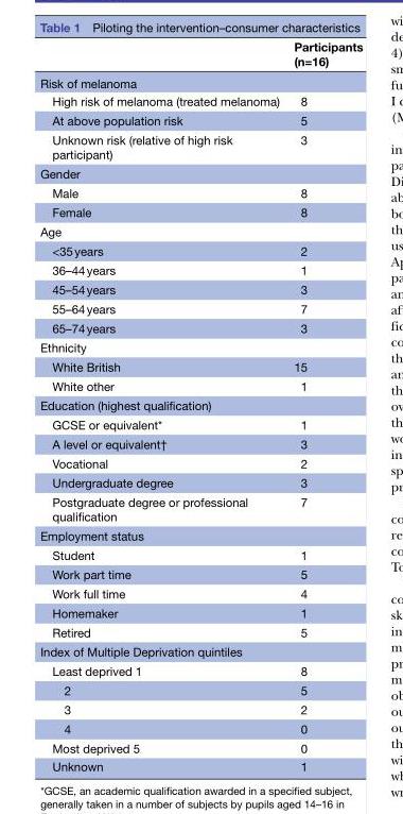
<table><thead><tr><td></td><td>Participants (n=16)</td></tr></thead><tbody><tr><td colspan="2">Risk of melanoma</td></tr><tr><td>High risk of melanoma (treated melanoma)</td><td>8</td></tr><tr><td>At above population risk</td><td>5</td></tr><tr><td>Unknown risk (relative of high risk participant)</td><td>3</td></tr><tr><td colspan="2">Gender</td></tr><tr><td>Male</td><td>8</td></tr><tr><td>Female</td><td>8</td></tr><tr><td colspan="2">Age</td></tr><tr><td>&lt;35 years</td><td>2</td></tr><tr><td>36–44 years</td><td>1</td></tr><tr><td>45–54 years</td><td>3</td></tr><tr><td>55–64 years</td><td>7</td></tr><tr><td>65–74 years</td><td>3</td></tr><tr><td colspan="2">Ethnicity</td></tr><tr><td>White British</td><td>15</td></tr><tr><td>White other</td><td>1</td></tr><tr><td colspan="2">Education (highest qualification)</td></tr><tr><td>GCSE or equivalent*</td><td>1</td></tr><tr><td>A level or equivalent†</td><td>3</td></tr><tr><td>Vocational</td><td>2</td></tr><tr><td>Undergraduate degree</td><td>3</td></tr><tr><td>Postgraduate degree or professional qualification</td><td>7</td></tr><tr><td colspan="2">Employment status</td></tr><tr><td>Student</td><td>1</td></tr><tr><td>Work part time</td><td>5</td></tr><tr><td>Work full time</td><td>4</td></tr><tr><td>Homemaker</td><td>1</td></tr><tr><td>Retired</td><td>5</td></tr><tr><td colspan="2">Index of Multiple Deprivation quintiles</td></tr><tr><td>Least deprived 1</td><td>8</td></tr><tr><td>2</td><td>5</td></tr><tr><td>3</td><td>2</td></tr><tr><td>4</td><td>0</td></tr><tr><td>Most deprived 5</td><td>0</td></tr><tr><td>Unknown</td><td>1</td></tr></tbody></table>